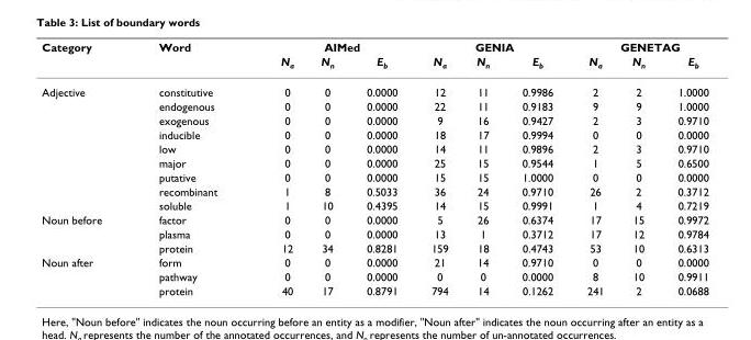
<table><thead><tr><td rowspan="2">Category</td><td rowspan="2">Word</td><td colspan="3">AIMed</td><td colspan="3">GENIA</td><td colspan="3">GENETAG</td></tr><tr><td>N<sub>a</sub></td><td>N<sub>n</sub></td><td>E<sub>b</sub></td><td>N<sub>a</sub></td><td>N<sub>n</sub></td><td>E<sub>b</sub></td><td>N<sub>a</sub></td><td>N<sub>n</sub></td><td>E<sub>b</sub></td></tr></thead><tbody><tr><td rowspan="9">Adjective</td><td>constitutive</td><td>0</td><td>0</td><td>0.0000</td><td>12</td><td>11</td><td>0.9986</td><td>2</td><td>2</td><td>1.0000</td></tr><tr><td>endogenous</td><td>0</td><td>0</td><td>0.0000</td><td>22</td><td>11</td><td>0.9183</td><td>9</td><td>9</td><td>1.0000</td></tr><tr><td>exogenous</td><td>0</td><td>0</td><td>0.0000</td><td>9</td><td>16</td><td>0.9427</td><td>2</td><td>3</td><td>0.9710</td></tr><tr><td>inducible</td><td>0</td><td>0</td><td>0.0000</td><td>18</td><td>17</td><td>0.9994</td><td>0</td><td>0</td><td>0.0000</td></tr><tr><td>low</td><td>0</td><td>0</td><td>0.0000</td><td>14</td><td>11</td><td>0.9896</td><td>2</td><td>3</td><td>0.9710</td></tr><tr><td>major</td><td>0</td><td>0</td><td>0.0000</td><td>25</td><td>15</td><td>0.9544</td><td>1</td><td>5</td><td>0.6500</td></tr><tr><td>putative</td><td>0</td><td>0</td><td>0.0000</td><td>15</td><td>15</td><td>1.0000</td><td>0</td><td>0</td><td>0.0000</td></tr><tr><td>recombinant</td><td>1</td><td>8</td><td>0.5033</td><td>36</td><td>24</td><td>0.9710</td><td>26</td><td>2</td><td>0.3712</td></tr><tr><td>soluble</td><td>1</td><td>10</td><td>0.4395</td><td>14</td><td>15</td><td>0.9991</td><td>1</td><td>4</td><td>0.7219</td></tr><tr><td rowspan="3">Noun before</td><td>factor</td><td>0</td><td>0</td><td>0.0000</td><td>5</td><td>26</td><td>0.6374</td><td>17</td><td>15</td><td>0.9972</td></tr><tr><td>plasma</td><td>0</td><td>0</td><td>0.0000</td><td>13</td><td>1</td><td>0.3712</td><td>17</td><td>12</td><td>0.9784</td></tr><tr><td>protein</td><td>12</td><td>34</td><td>0.8281</td><td>159</td><td>18</td><td>0.4743</td><td>53</td><td>10</td><td>0.6313</td></tr><tr><td rowspan="3">Noun after</td><td>form</td><td>0</td><td>0</td><td>0.0000</td><td>21</td><td>14</td><td>0.9710</td><td>0</td><td>0</td><td>0.0000</td></tr><tr><td>pathway</td><td>0</td><td>0</td><td>0.0000</td><td>0</td><td>0</td><td>0.0000</td><td>8</td><td>10</td><td>0.9911</td></tr><tr><td>protein</td><td>40</td><td>17</td><td>0.8791</td><td>794</td><td>14</td><td>0.1262</td><td>241</td><td>2</td><td>0.0688</td></tr></tbody></table>